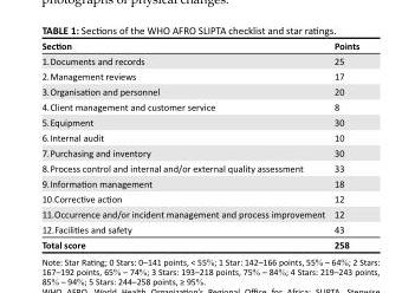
<table><thead><tr><td>Section</td><td>Points</td></tr></thead><tbody><tr><td>1. Documents and records</td><td>25</td></tr><tr><td>2. Management reviews</td><td>17</td></tr><tr><td>3. Organisation and personnel</td><td>20</td></tr><tr><td>4. Client management and customer service</td><td>8</td></tr><tr><td>5. Equipment</td><td>30</td></tr><tr><td>6. Internal audit</td><td>10</td></tr><tr><td>7. Purchasing and inventory</td><td>30</td></tr><tr><td>8. Process control and internal and/or external quality assessment</td><td>33</td></tr><tr><td>9. Information management</td><td>18</td></tr><tr><td>10.Corrective action</td><td>12</td></tr><tr><td>11.Occurrence and/or incident management and process improvement</td><td>12</td></tr><tr><td>12.Facilities and safety</td><td>43</td></tr><tr><td>Total score</td><td>258</td></tr></tbody></table>